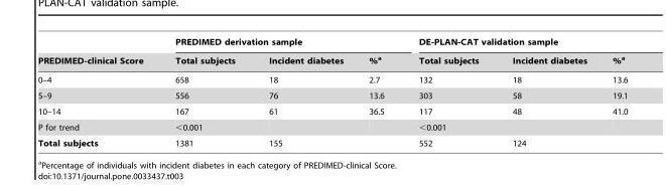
<table><thead><tr><td rowspan="2">PREDIMED-clinical Score</td><td colspan="3">PREDIMED derivation sample</td><td colspan="3">DE-PLAN-CAT validation sample</td></tr><tr><td>Total subjects</td><td>Incident diabetes</td><td>%<sup>a</sup></td><td>Total subjects</td><td>Incident diabetes</td><td>%<sup>a</sup></td></tr></thead><tbody><tr><td>0–4</td><td>658</td><td>18</td><td>2.7</td><td>132</td><td>18</td><td>13.6</td></tr><tr><td>5–9</td><td>556</td><td>76</td><td>13.6</td><td>303</td><td>58</td><td>19.1</td></tr><tr><td>10–14</td><td>167</td><td>61</td><td>36.5</td><td>117</td><td>48</td><td>41.0</td></tr><tr><td>P for trend</td><td>&lt;0.001</td><td></td><td></td><td>&lt;0.001</td><td></td><td></td></tr><tr><td>Total subjects</td><td>1381</td><td>155</td><td></td><td>552</td><td>124</td><td></td></tr></tbody></table>